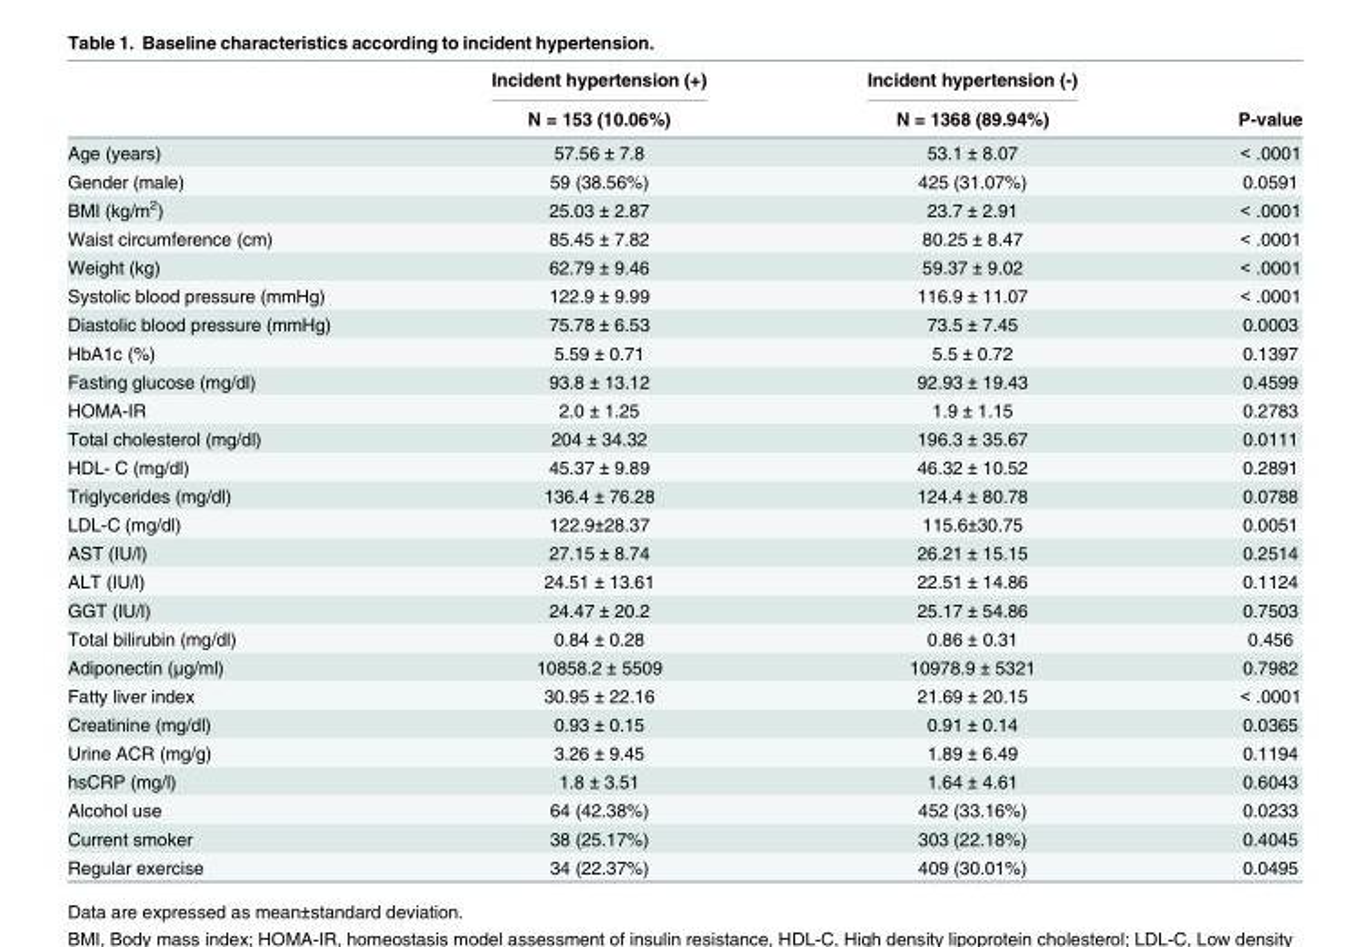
<table><thead><tr><td rowspan="2"></td><td rowspan="2">Incident hypertension (+) N = 153 (10.06%)</td><td rowspan="2">Incident hypertension (-) N = 1368 (89.94%)</td><td rowspan="2">P-value</td></tr><tr></tr></thead><tbody><tr><td>Age (years)</td><td>57.56 ± 7.8</td><td>53.1 ± 8.07</td><td>&lt; .0001</td></tr><tr><td>Gender (male)</td><td>59 (38.56%)</td><td>425 (31.07%)</td><td>0.0591</td></tr><tr><td>BMI (kg/m<sup>2</sup>)</td><td>25.03 ± 2.87</td><td>23.7 ± 2.91</td><td>&lt; .0001</td></tr><tr><td>Waist circumference (cm)</td><td>85.45 ± 7.82</td><td>80.25 ± 8.47</td><td>&lt; .0001</td></tr><tr><td>Weight (kg)</td><td>62.79 ± 9.46</td><td>59.37 ± 9.02</td><td>&lt; .0001</td></tr><tr><td>Systolic blood pressure (mmHg)</td><td>122.9 ± 9.99</td><td>116.9 ± 11.07</td><td>&lt; .0001</td></tr><tr><td>Diastolic blood pressure (mmHg)</td><td>75.78 ± 6.53</td><td>73.5 ± 7.45</td><td>0.0003</td></tr><tr><td>HbA1c (%)</td><td>5.59 ± 0.71</td><td>5.5 ± 0.72</td><td>0.1397</td></tr><tr><td>Fasting glucose (mg/dl)</td><td>93.8 ± 13.12</td><td>92.93 ± 19.43</td><td>0.4599</td></tr><tr><td>HOMA-IR</td><td>2.0 ± 1.25</td><td>1.9 ± 1.15</td><td>0.2783</td></tr><tr><td>Total cholesterol (mg/dl)</td><td>204 ± 34.32</td><td>196.3 ± 35.67</td><td>0.0111</td></tr><tr><td>HDL- C (mg/dl)</td><td>45.37 ± 9.89</td><td>46.32 ± 10.52</td><td>0.2891</td></tr><tr><td>Triglycerides (mg/dl)</td><td>136.4 ± 76.28</td><td>124.4 ± 80.78</td><td>0.0788</td></tr><tr><td>LDL-C (mg/dl)</td><td>122.9±28.37</td><td>115.6±30.75</td><td>0.0051</td></tr><tr><td>AST (IU/l)</td><td>27.15 ± 8.74</td><td>26.21 ± 15.15</td><td>0.2514</td></tr><tr><td>ALT (IU/l)</td><td>24.51 ± 13.61</td><td>22.51 ± 14.86</td><td>0.1124</td></tr><tr><td>GGT (IU/l)</td><td>24.47 ± 20.2</td><td>25.17 ± 54.86</td><td>0.7503</td></tr><tr><td>Total bilirubin (mg/dl)</td><td>0.84 ± 0.28</td><td>0.86 ± 0.31</td><td>0.456</td></tr><tr><td>Adiponectin (μg/ml)</td><td>10858.2 ± 5509</td><td>10978.9 ± 5321</td><td>0.7982</td></tr><tr><td>Fatty liver index</td><td>30.95 ± 22.16</td><td>21.69 ± 20.15</td><td>&lt; .0001</td></tr><tr><td>Creatinine (mg/dl)</td><td>0.93 ± 0.15</td><td>0.91 ± 0.14</td><td>0.0365</td></tr><tr><td>Urine ACR (mg/g)</td><td>3.26 ± 9.45</td><td>1.89 ± 6.49</td><td>0.1194</td></tr><tr><td>hsCRP (mg/l)</td><td>1.8 ± 3.51</td><td>1.64 ± 4.61</td><td>0.6043</td></tr><tr><td>Alcohol use</td><td>64 (42.38%)</td><td>452 (33.16%)</td><td>0.0233</td></tr><tr><td>Current smoker</td><td>38 (25.17%)</td><td>303 (22.18%)</td><td>0.4045</td></tr><tr><td>Regular exercise</td><td>34 (22.37%)</td><td>409 (30.01%)</td><td>0.0495</td></tr></tbody></table>